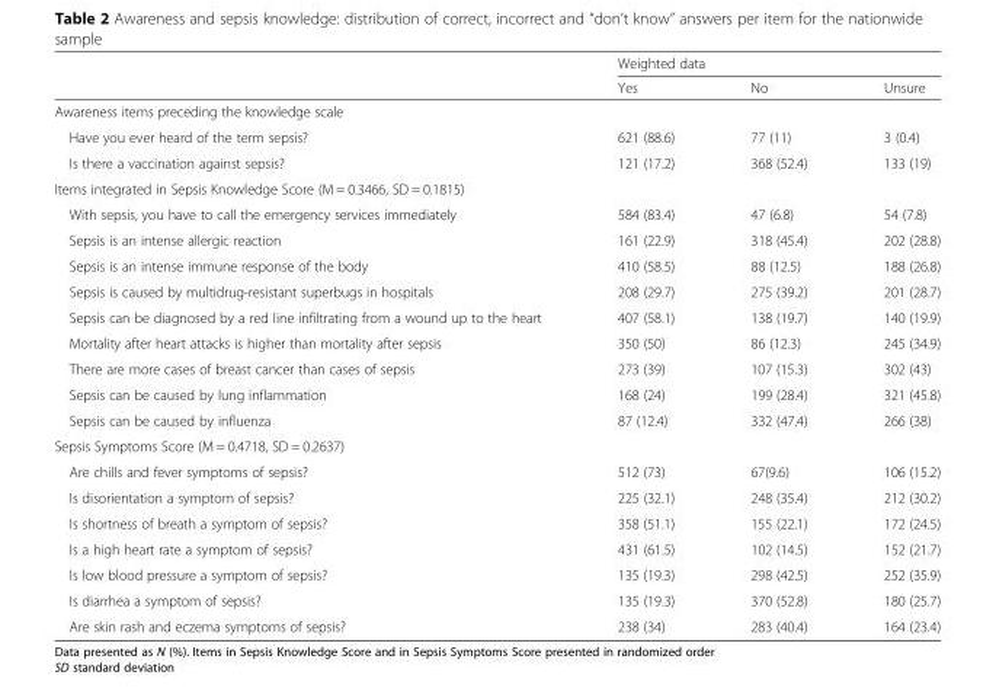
<table><thead><tr><td rowspan="2"></td><td colspan="3">Weighted data</td></tr><tr><td>Yes</td><td>No</td><td>Unsure</td></tr></thead><tbody><tr><td colspan="4">Awareness items preceding the knowledge scale</td></tr><tr><td>Have you ever heard of the term sepsis?</td><td>621 (88.6)</td><td>77 (11)</td><td>3 (0.4)</td></tr><tr><td>Is there a vaccination against sepsis?</td><td>121 (17.2)</td><td>368 (52.4)</td><td>133 (19)</td></tr><tr><td colspan="4">Items integrated in Sepsis Knowledge Score (M = 0.3466, SD = 0.1815)</td></tr><tr><td>With sepsis, you have to call the emergency services immediately</td><td>584 (83.4)</td><td>47 (6.8)</td><td>54 (7.8)</td></tr><tr><td>Sepsis is an intense allergic reaction</td><td>161 (22.9)</td><td>318 (45.4)</td><td>202 (28.8)</td></tr><tr><td>Sepsis is an intense immune response of the body</td><td>410 (58.5)</td><td>88 (12.5)</td><td>188 (26.8)</td></tr><tr><td>Sepsis is caused by multidrug-resistant superbugs in hospitals</td><td>208 (29.7)</td><td>275 (39.2)</td><td>201 (28.7)</td></tr><tr><td>Sepsis can be diagnosed by a red line infiltrating from a wound up to the heart</td><td>407 (58.1)</td><td>138 (19.7)</td><td>140 (19.9)</td></tr><tr><td>Mortality after heart attacks is higher than mortality after sepsis</td><td>350 (50)</td><td>86 (12.3)</td><td>245 (34.9)</td></tr><tr><td>There are more cases of breast cancer than cases of sepsis</td><td>273 (39)</td><td>107 (15.3)</td><td>302 (43)</td></tr><tr><td>Sepsis can be caused by lung inflammation</td><td>168 (24)</td><td>199 (28.4)</td><td>321 (45.8)</td></tr><tr><td>Sepsis can be caused by influenza</td><td>87 (12.4)</td><td>332 (47.4)</td><td>266 (38)</td></tr><tr><td colspan="4">Sepsis Symptoms Score (M = 0.4718, SD = 0.2637)</td></tr><tr><td>Are chills and fever symptoms of sepsis?</td><td>512 (73)</td><td>67(9.6)</td><td>106 (15.2)</td></tr><tr><td>Is disorientation a symptom of sepsis?</td><td>225 (32.1)</td><td>248 (35.4)</td><td>212 (30.2)</td></tr><tr><td>Is shortness of breath a symptom of sepsis?</td><td>358 (51.1)</td><td>155 (22.1)</td><td>172 (24.5)</td></tr><tr><td>Is a high heart rate a symptom of sepsis?</td><td>431 (61.5)</td><td>102 (14.5)</td><td>152 (21.7)</td></tr><tr><td>Is low blood pressure a symptom of sepsis?</td><td>135 (19.3)</td><td>298 (42.5)</td><td>252 (35.9)</td></tr><tr><td>Is diarrhea a symptom of sepsis?</td><td>135 (19.3)</td><td>370 (52.8)</td><td>180 (25.7)</td></tr><tr><td>Are skin rash and eczema symptoms of sepsis?</td><td>238 (34)</td><td>283 (40.4)</td><td>164 (23.4)</td></tr></tbody></table>